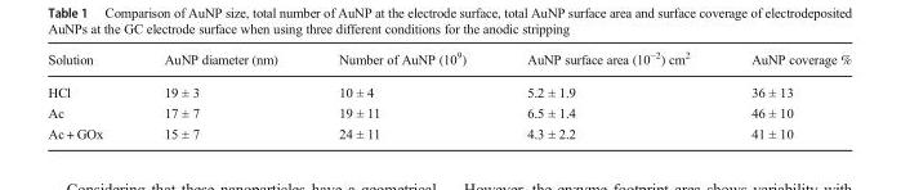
<table><thead><tr><td>Solution</td><td>AuNP diameter (nm)</td><td>Number of AuNP (10<sup>9</sup>)</td><td>AuNP surface area (10<sup>−2</sup>) cm<sup>2</sup></td><td>AuNP coverage %</td></tr></thead><tbody><tr><td>HCl</td><td>19 ± 3</td><td>10 ± 4</td><td>5.2 ± 1.9</td><td>36 ± 13</td></tr><tr><td>Ac</td><td>17 ± 7</td><td>19 ± 11</td><td>6.5 ± 1.4</td><td>46 ± 10</td></tr><tr><td>Ac + GOx</td><td>15 ± 7</td><td>24 ± 11</td><td>4.3 ± 2.2</td><td>41 ± 10</td></tr></tbody></table>